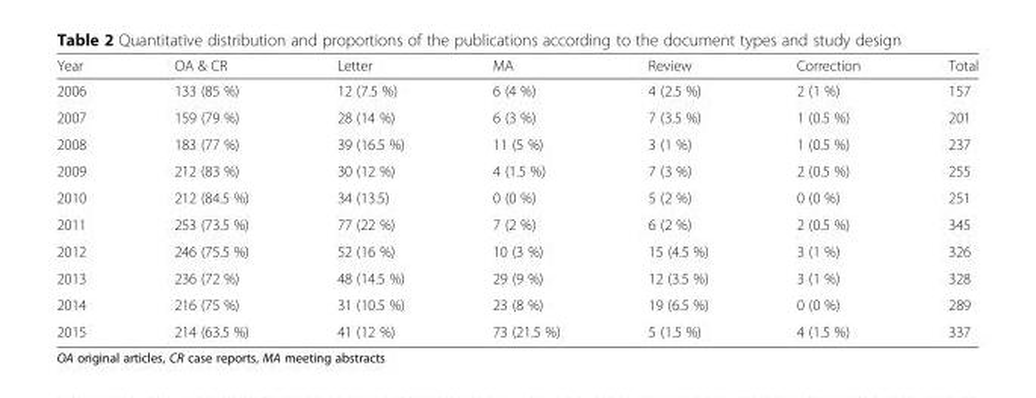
<table><thead><tr><td>Year</td><td>OA &amp; CR</td><td>Letter</td><td>MA</td><td>Review</td><td>Correction</td><td>Total</td></tr></thead><tbody><tr><td>2006</td><td>133 (85 %)</td><td>12 (7.5 %)</td><td>6 (4 %)</td><td>4 (2.5 %)</td><td>2 (1 %)</td><td>157</td></tr><tr><td>2007</td><td>159 (79 %)</td><td>28 (14 %)</td><td>6 (3 %)</td><td>7 (3.5 %)</td><td>1 (0.5 %)</td><td>201</td></tr><tr><td>2008</td><td>183 (77 %)</td><td>39 (16.5 %)</td><td>11 (5 %)</td><td>3 (1 %)</td><td>1 (0.5 %)</td><td>237</td></tr><tr><td>2009</td><td>212 (83 %)</td><td>30 (12 %)</td><td>4 (1.5 %)</td><td>7 (3 %)</td><td>2 (0.5 %)</td><td>255</td></tr><tr><td>2010</td><td>212 (84.5 %)</td><td>34 (13.5)</td><td>0 (0 %)</td><td>5 (2 %)</td><td>0 (0 %)</td><td>251</td></tr><tr><td>2011</td><td>253 (73.5 %)</td><td>77 (22 %)</td><td>7 (2 %)</td><td>6 (2 %)</td><td>2 (0.5 %)</td><td>345</td></tr><tr><td>2012</td><td>246 (75.5 %)</td><td>52 (16 %)</td><td>10 (3 %)</td><td>15 (4.5 %)</td><td>3 (1 %)</td><td>326</td></tr><tr><td>2013</td><td>236 (72 %)</td><td>48 (14.5 %)</td><td>29 (9 %)</td><td>12 (3.5 %)</td><td>3 (1 %)</td><td>328</td></tr><tr><td>2014</td><td>216 (75 %)</td><td>31 (10.5 %)</td><td>23 (8 %)</td><td>19 (6.5 %)</td><td>0 (0 %)</td><td>289</td></tr><tr><td>2015</td><td>214 (63.5 %)</td><td>41 (12 %)</td><td>73 (21.5 %)</td><td>5 (1.5 %)</td><td>4 (1.5 %)</td><td>337</td></tr></tbody></table>